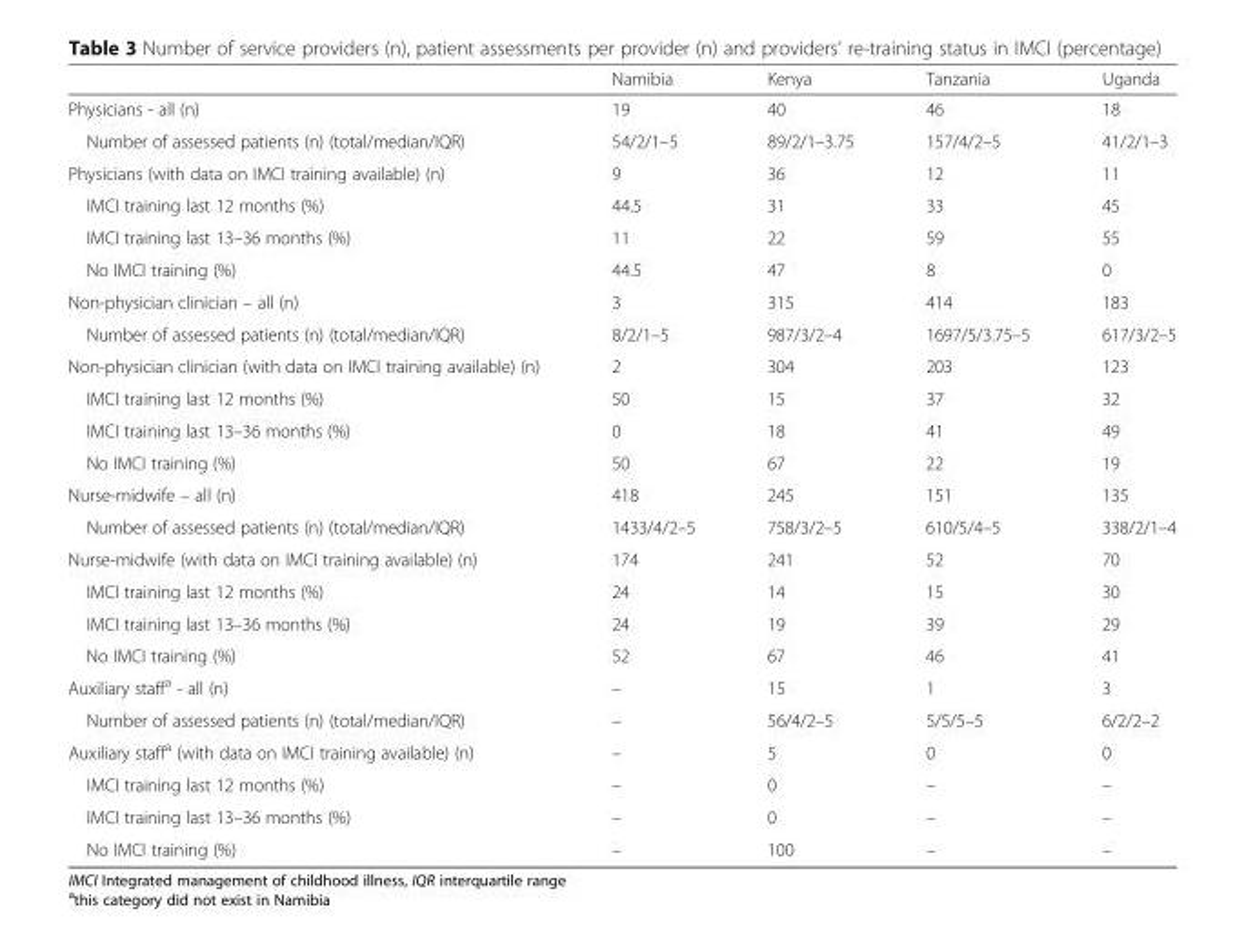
<table><thead><tr><td></td><td>Namibia</td><td>Kenya</td><td>Tanzania</td><td>Uganda</td></tr></thead><tbody><tr><td>Physicians - all (n)</td><td>19</td><td>40</td><td>46</td><td>18</td></tr><tr><td>Number of assessed patients (n) (total/median/IQR)</td><td>54/2/1–5</td><td>89/2/1–3.75</td><td>157/4/2–5</td><td>41/2/1–3</td></tr><tr><td>Physicians (with data on IMCI training available) (n)</td><td>9</td><td>36</td><td>12</td><td>11</td></tr><tr><td>IMCI training last 12 months (%)</td><td>44.5</td><td>31</td><td>33</td><td>45</td></tr><tr><td>IMCI training last 13–36 months (%)</td><td>11</td><td>22</td><td>59</td><td>55</td></tr><tr><td>No IMCI training (%)</td><td>44.5</td><td>47</td><td>8</td><td>0</td></tr><tr><td>Non-physician clinician – all (n)</td><td>3</td><td>315</td><td>414</td><td>183</td></tr><tr><td>Number of assessed patients (n) (total/median/IQR)</td><td>8/2/1–5</td><td>987/3/2–4</td><td>1697/5/3.75–5</td><td>617/3/2–5</td></tr><tr><td>Non-physician clinician (with data on IMCI training available) (n)</td><td>2</td><td>304</td><td>203</td><td>123</td></tr><tr><td>IMCI training last 12 months (%)</td><td>50</td><td>15</td><td>37</td><td>32</td></tr><tr><td>IMCI training last 13–36 months (%)</td><td>0</td><td>18</td><td>41</td><td>49</td></tr><tr><td>No IMCI training (%)</td><td>50</td><td>67</td><td>22</td><td>19</td></tr><tr><td>Nurse-midwife – all (n)</td><td>418</td><td>245</td><td>151</td><td>135</td></tr><tr><td>Number of assessed patients (n) (total/median/IQR)</td><td>1433/4/2–5</td><td>758/3/2–5</td><td>610/5/4–5</td><td>338/2/1–4</td></tr><tr><td>Nurse-midwife (with data on IMCI training available) (n)</td><td>174</td><td>241</td><td>52</td><td>70</td></tr><tr><td>IMCI training last 12 months (%)</td><td>24</td><td>14</td><td>15</td><td>30</td></tr><tr><td>IMCI training last 13–36 months (%)</td><td>24</td><td>19</td><td>39</td><td>29</td></tr><tr><td>No IMCI training (%)</td><td>52</td><td>67</td><td>46</td><td>41</td></tr><tr><td>Auxiliary staff<sup>a</sup> - all (n)</td><td>–</td><td>15</td><td>1</td><td>3</td></tr><tr><td>Number of assessed patients (n) (total/median/IQR)</td><td>–</td><td>56/4/2–5</td><td>5/5/5–5</td><td>6/2/2–2</td></tr><tr><td>Auxiliary staff<sup>a</sup> (with data on IMCI training available) (n)</td><td>–</td><td>5</td><td>0</td><td>0</td></tr><tr><td>IMCI training last 12 months (%)</td><td>–</td><td>0</td><td>–</td><td>–</td></tr><tr><td>IMCI training last 13–36 months (%)</td><td>–</td><td>0</td><td>–</td><td>–</td></tr><tr><td>No IMCI training (%)</td><td>–</td><td>100</td><td>–</td><td>–</td></tr></tbody></table>